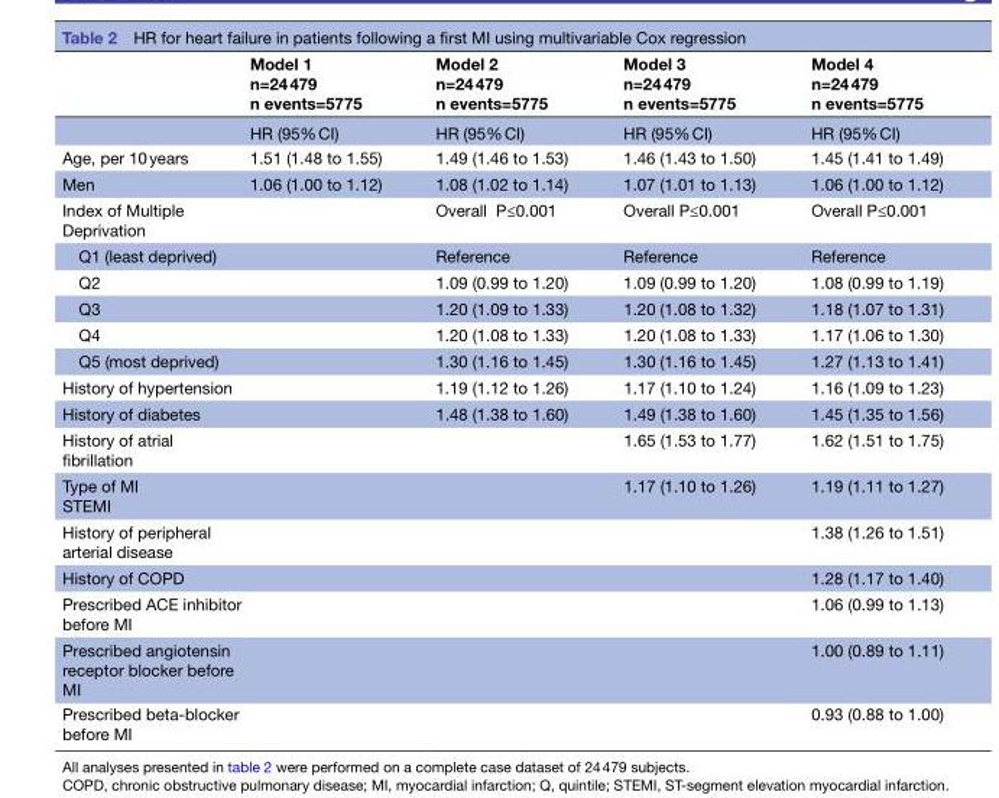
<table><thead><tr><td></td><td>Model 1 n=24 479 n events=5775</td><td>Model 2 n=24 479 n events=5775</td><td>Model 3 n=24 479 n events=5775</td><td>Model 4 n=24 479 n events=5775</td></tr></thead><tbody><tr><td></td><td>HR (95% CI)</td><td>HR (95% CI)</td><td>HR (95% CI)</td><td>HR (95% CI)</td></tr><tr><td>Age, per 10 years</td><td>1.51 (1.48 to 1.55)</td><td>1.49 (1.46 to 1.53)</td><td>1.46 (1.43 to 1.50)</td><td>1.45 (1.41 to 1.49)</td></tr><tr><td>Men</td><td>1.06 (1.00 to 1.12)</td><td>1.08 (1.02 to 1.14)</td><td>1.07 (1.01 to 1.13)</td><td>1.06 (1.00 to 1.12)</td></tr><tr><td>Index of Multiple Deprivation</td><td></td><td>Overall P≤0.001</td><td>Overall P≤0.001</td><td>Overall P≤0.001</td></tr><tr><td>Q1 (least deprived)</td><td></td><td>Reference</td><td>Reference</td><td>Reference</td></tr><tr><td>Q2</td><td></td><td>1.09 (0.99 to 1.20)</td><td>1.09 (0.99 to 1.20)</td><td>1.08 (0.99 to 1.19)</td></tr><tr><td>Q3</td><td></td><td>1.20 (1.09 to 1.33)</td><td>1.20 (1.08 to 1.32)</td><td>1.18 (1.07 to 1.31)</td></tr><tr><td>Q4</td><td></td><td>1.20 (1.08 to 1.33)</td><td>1.20 (1.08 to 1.33)</td><td>1.17 (1.06 to 1.30)</td></tr><tr><td>Q5 (most deprived)</td><td></td><td>1.30 (1.16 to 1.45)</td><td>1.30 (1.16 to 1.45)</td><td>1.27 (1.13 to 1.41)</td></tr><tr><td>History of hypertension</td><td></td><td>1.19 (1.12 to 1.26)</td><td>1.17 (1.10 to 1.24)</td><td>1.16 (1.09 to 1.23)</td></tr><tr><td>History of diabetes</td><td></td><td>1.48 (1.38 to 1.60)</td><td>1.49 (1.38 to 1.60)</td><td>1.45 (1.35 to 1.56)</td></tr><tr><td>History of atrial fibrillation</td><td></td><td></td><td>1.65 (1.53 to 1.77)</td><td>1.62 (1.51 to 1.75)</td></tr><tr><td>Type of MI STEMI</td><td></td><td></td><td>1.17 (1.10 to 1.26)</td><td>1.19 (1.11 to 1.27)</td></tr><tr><td>History of peripheral arterial disease</td><td></td><td></td><td></td><td>1.38 (1.26 to 1.51)</td></tr><tr><td>History of COPD</td><td></td><td></td><td></td><td>1.28 (1.17 to 1.40)</td></tr><tr><td>Prescribed ACE inhibitor before MI</td><td></td><td></td><td></td><td>1.06 (0.99 to 1.13)</td></tr><tr><td>Prescribed angiotensin receptor blocker before MI</td><td></td><td></td><td></td><td>1.00 (0.89 to 1.11)</td></tr><tr><td>Prescribed beta-blocker before MI</td><td></td><td></td><td></td><td>0.93 (0.88 to 1.00)</td></tr></tbody></table>